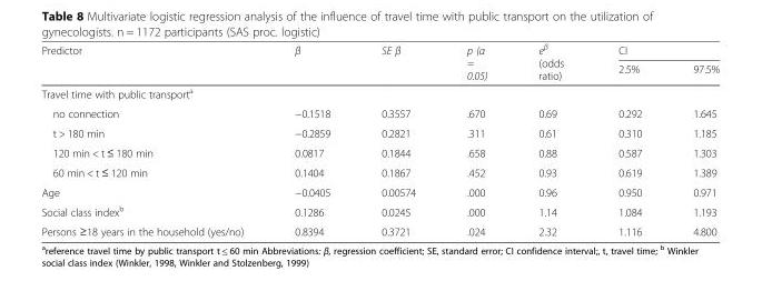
<table><thead><tr><td rowspan="2">Predictor</td><td rowspan="2">β</td><td rowspan="2">SE β</td><td rowspan="2">p (α = 0.05)</td><td rowspan="2">e<sup>β</sup> (odds ratio)</td><td colspan="2">CI</td></tr><tr><td>2.5%</td><td>97.5%</td></tr></thead><tbody><tr><td colspan="7">Travel time with public transport<sup>a</sup></td></tr><tr><td>no connection</td><td>−0.1518</td><td>0.3557</td><td>.670</td><td>0.69</td><td>0.292</td><td>1.645</td></tr><tr><td>t &gt; 180 min</td><td>−0.2859</td><td>0.2821</td><td>.311</td><td>0.61</td><td>0.310</td><td>1.185</td></tr><tr><td>120 min &lt; t ≤ 180 min</td><td>0.0817</td><td>0.1844</td><td>.658</td><td>0.88</td><td>0.587</td><td>1.303</td></tr><tr><td>60 min &lt; t ≤ 120 min</td><td>0.1404</td><td>0.1867</td><td>.452</td><td>0.93</td><td>0.619</td><td>1.389</td></tr><tr><td>Age</td><td>−0.0405</td><td>0.00574</td><td>.000</td><td>0.96</td><td>0.950</td><td>0.971</td></tr><tr><td>Social class index<sup>b</sup></td><td>0.1286</td><td>0.0245</td><td>.000</td><td>1.14</td><td>1.084</td><td>1.193</td></tr><tr><td>Persons ≥18 years in the household (yes/no)</td><td>0.8394</td><td>0.3721</td><td>.024</td><td>2.32</td><td>1.116</td><td>4.800</td></tr></tbody></table>